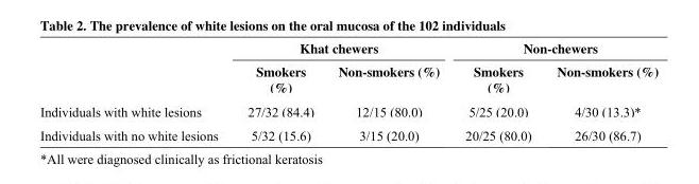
<table><thead><tr><td rowspan="2"></td><td colspan="2">Khat chewers</td><td colspan="2">Non-chewers</td></tr><tr><td>Smokers (%)</td><td>Non-smokers (%)</td><td>Smokers (%)</td><td>Non-smokers (%)</td></tr></thead><tbody><tr><td>Individuals with white lesions</td><td>27/32 (84.4)</td><td>12/15 (80.0)</td><td>5/25 (20.0)</td><td>4/30 (13.3)*</td></tr><tr><td>Individuals with no white lesions</td><td>5/32 (15.6)</td><td>3/15 (20.0)</td><td>20/25 (80.0)</td><td>26/30 (86.7)</td></tr></tbody></table>